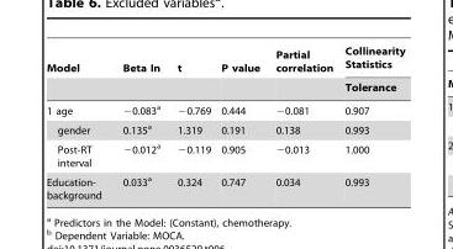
<table><thead><tr><td rowspan="2">Model</td><td rowspan="2">Beta In</td><td rowspan="2">t</td><td rowspan="2">P value</td><td rowspan="2">Partial correlation</td><td rowspan="2">Collinearity Statistics Tolerance</td></tr><tr></tr></thead><tbody><tr><td>1 age</td><td>−0.083<sup>a</sup></td><td>−0.769</td><td>0.444</td><td>−0.081</td><td>0.907</td></tr><tr><td>gender</td><td>0.135<sup>a</sup></td><td>1.319</td><td>0.191</td><td>0.138</td><td>0.993</td></tr><tr><td>Post-RT interval</td><td>−0.012<sup>a</sup></td><td>−0.119</td><td>0.905</td><td>−0.013</td><td>1.000</td></tr><tr><td>Education- background</td><td>0.033<sup>a</sup></td><td>0.324</td><td>0.747</td><td>0.034</td><td>0.993</td></tr></tbody></table>